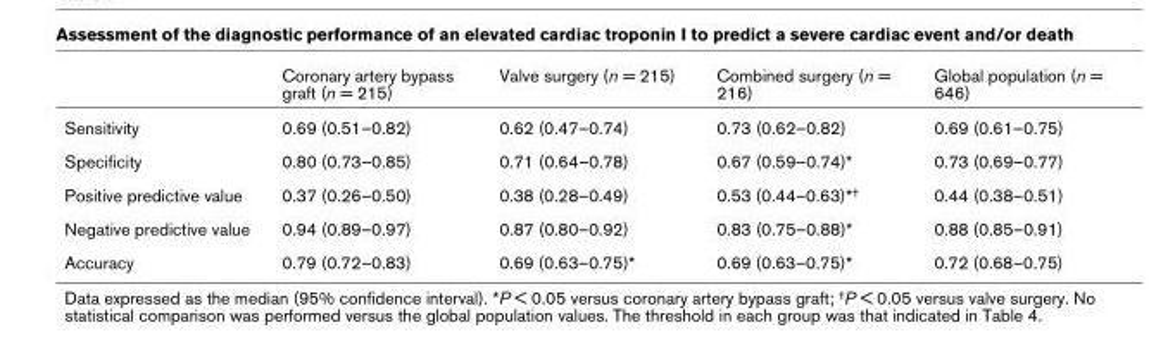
<table><thead><tr><td></td><td>Coronary artery bypass graft (n = 215)</td><td>Valve surgery (n = 215)</td><td>Combined surgery (n = 216)</td><td>Global population (n = 646)</td></tr></thead><tbody><tr><td>Sensitivity</td><td>0.69 (0.51–0.82)</td><td>0.62 (0.47–0.74)</td><td>0.73 (0.62–0.82)</td><td>0.69 (0.61–0.75)</td></tr><tr><td>Specificity</td><td>0.80 (0.73–0.85)</td><td>0.71 (0.64–0.78)</td><td>0.67 (0.59–0.74)*</td><td>0.73 (0.69–0.77)</td></tr><tr><td>Positive predictive value</td><td>0.37 (0.26–0.50)</td><td>0.38 (0.28–0.49)</td><td>0.53 (0.44–0.63)*<sup>†</sup></td><td>0.44 (0.38–0.51)</td></tr><tr><td>Negative predictive value</td><td>0.94 (0.89–0.97)</td><td>0.87 (0.80–0.92)</td><td>0.83 (0.75–0.88)*</td><td>0.88 (0.85–0.91)</td></tr><tr><td>Accuracy</td><td>0.79 (0.72–0.83)</td><td>0.69 (0.63–0.75)*</td><td>0.69 (0.63–0.75)*</td><td>0.72 (0.68–0.75)</td></tr></tbody></table>